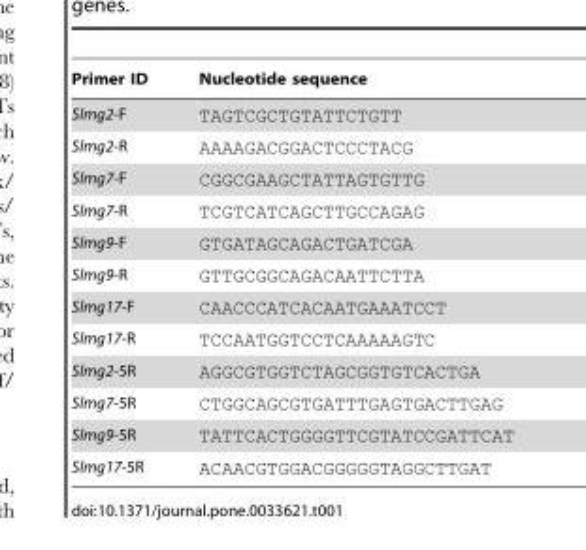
<table><thead><tr><td>Primer ID</td><td>Nucleotide sequence</td></tr></thead><tbody><tr><td>Slmg2-F</td><td>TAGTCGCTGTATTCTGTT</td></tr><tr><td>Slmg2-R</td><td>AAAAGACGGACTCCCTACG</td></tr><tr><td>Slmg7-F</td><td>CGGCGAAGCTATTAGTGTTG</td></tr><tr><td>Slmg7-R</td><td>TCGTCATCAGCTTGCCAGAG</td></tr><tr><td>Slmg9-F</td><td>GTGATAGCAGACTGATCGA</td></tr><tr><td>Slmg9-R</td><td>GTTGCGGCAGACAATTCTTA</td></tr><tr><td>Slmg17-F</td><td>CAACCCATCACAATGAAATCCT</td></tr><tr><td>Slmg17-R</td><td>TCCAATGGTCCTCAAAAAGTC</td></tr><tr><td>Slmg2-5R</td><td>AGGCGTGGTCTAGCGGTGTCACTGA</td></tr><tr><td>Slmg7-5R</td><td>CTGGCAGCGTGATTTGAGTGACTTGAG</td></tr><tr><td>Slmg9-5R</td><td>TATTCACTGGGGTTCGTATCCGATTCAT</td></tr><tr><td>Slmg17-5R</td><td>ACAACGTGGACGGGGGTAGGCTTGAT</td></tr></tbody></table>